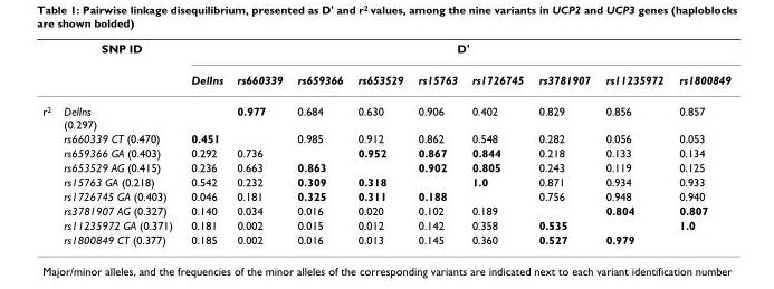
<table><thead><tr><td rowspan="2"></td><td rowspan="2">SNP ID</td><td colspan="9">D&#x27;</td></tr><tr><td>DelIns</td><td>rs660339</td><td>rs659366</td><td>rs653529</td><td>rs15763</td><td>rs1726745</td><td>rs3781907</td><td>rs11235972</td><td>rs1800849</td></tr></thead><tbody><tr><td rowspan="9">r<sup>2</sup></td><td>DelIns (0.297)</td><td></td><td>0.977</td><td>0.684</td><td>0.630</td><td>0.906</td><td>0.402</td><td>0.829</td><td>0.856</td><td>0.857</td></tr><tr><td>rs660339 CT (0.470)</td><td>0.451</td><td></td><td>0.985</td><td>0.912</td><td>0.862</td><td>0.548</td><td>0.282</td><td>0.056</td><td>0.053</td></tr><tr><td>rs659366 GA (0.403)</td><td>0.292</td><td>0.736</td><td></td><td>0.952</td><td>0.867</td><td>0.844</td><td>0.218</td><td>0.133</td><td>0.134</td></tr><tr><td>rs653529 AG (0.415)</td><td>0.236</td><td>0.663</td><td>0.863</td><td></td><td>0.902</td><td>0.805</td><td>0.243</td><td>0.119</td><td>0.125</td></tr><tr><td>rs15763 GA (0.218)</td><td>0.542</td><td>0.232</td><td>0.309</td><td>0.318</td><td></td><td>1.0</td><td>0.871</td><td>0.934</td><td>0.933</td></tr><tr><td>rs1726745 GA (0.403)</td><td>0.046</td><td>0.181</td><td>0.325</td><td>0.311</td><td>0.188</td><td></td><td>0.756</td><td>0.948</td><td>0.940</td></tr><tr><td>rs3781907 AG (0.327)</td><td>0.140</td><td>0.034</td><td>0.016</td><td>0.020</td><td>0.102</td><td>0.189</td><td></td><td>0.804</td><td>0.807</td></tr><tr><td>rs11235972 GA (0.371)</td><td>0.181</td><td>0.002</td><td>0.015</td><td>0.012</td><td>0.142</td><td>0.358</td><td>0.535</td><td></td><td>1.0</td></tr><tr><td>rs1800849 CT (0.377)</td><td>0.185</td><td>0.002</td><td>0.016</td><td>0.013</td><td>0.145</td><td>0.360</td><td>0.527</td><td>0.979</td><td></td></tr></tbody></table>